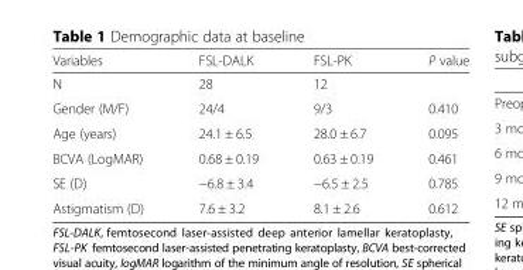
<table><thead><tr><td>Variables</td><td>FSL-DALK</td><td>FSL-PK</td><td>P value</td></tr></thead><tbody><tr><td>N</td><td>28</td><td>12</td><td></td></tr><tr><td>Gender (M/F)</td><td>24/4</td><td>9/3</td><td>0.410</td></tr><tr><td>Age (years)</td><td>24.1 ± 6.5</td><td>28.0 ± 6.7</td><td>0.095</td></tr><tr><td>BCVA (LogMAR)</td><td>0.68 ± 0.19</td><td>0.63 ± 0.19</td><td>0.461</td></tr><tr><td>SE (D)</td><td>−6.8 ± 3.4</td><td>−6.5 ± 2.5</td><td>0.785</td></tr><tr><td>Astigmatism (D)</td><td>7.6 ± 3.2</td><td>8.1 ± 2.6</td><td>0.612</td></tr></tbody></table>